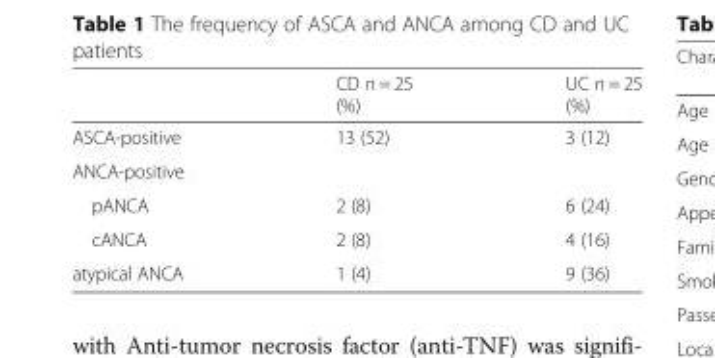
<table><thead><tr><td></td><td>CD n = 25 (%)</td><td>UC n = 25 (%)</td></tr></thead><tbody><tr><td>ASCA-positive</td><td>13 (52)</td><td>3 (12)</td></tr><tr><td colspan="3">ANCA-positive</td></tr><tr><td>pANCA</td><td>2 (8)</td><td>6 (24)</td></tr><tr><td>cANCA</td><td>2 (8)</td><td>4 (16)</td></tr><tr><td>atypical ANCA</td><td>1 (4)</td><td>9 (36)</td></tr></tbody></table>